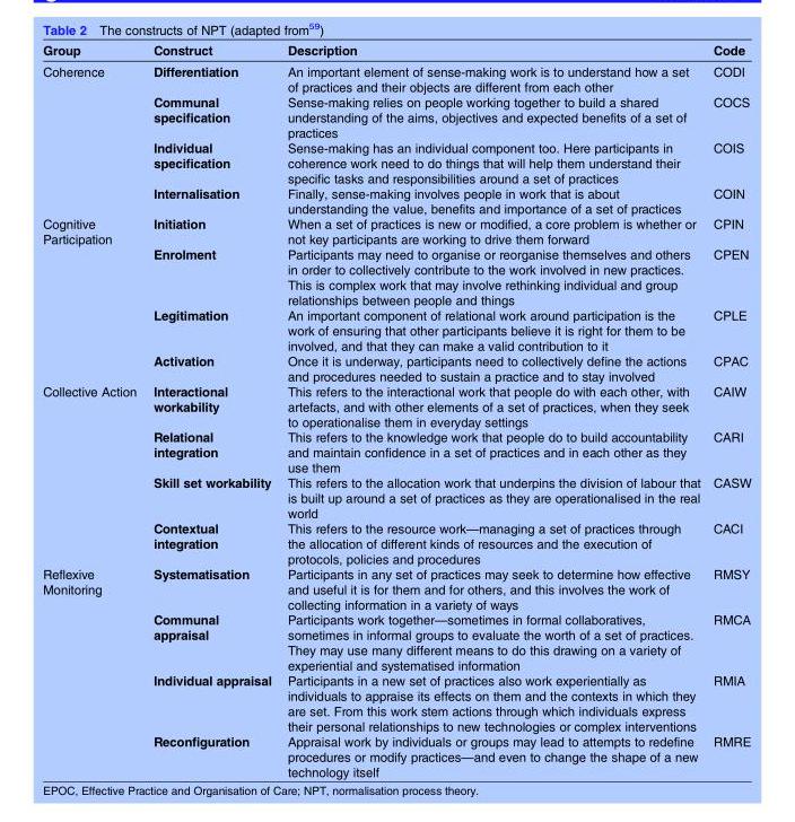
<table><thead><tr><td>Group</td><td>Construct</td><td>Description</td><td>Code</td></tr></thead><tbody><tr><td rowspan="4">Coherence</td><td>Differentiation</td><td>An important element of sense-making work is to understand how a set of practices and their objects are different from each other</td><td>CODI</td></tr><tr><td>Communal specification</td><td>Sense-making relies on people working together to build a shared understanding of the aims, objectives and expected benefits of a set of practices</td><td>COCS</td></tr><tr><td>Individual specification</td><td>Sense-making has an individual component too. Here participants in coherence work need to do things that will help them understand their specific tasks and responsibilities around a set of practices</td><td>COIS</td></tr><tr><td>Internalisation</td><td>Finally, sense-making involves people in work that is about understanding the value, benefits and importance of a set of practices</td><td>COIN</td></tr><tr><td rowspan="4">Cognitive Participation</td><td>Initiation</td><td>When a set of practices is new or modified, a core problem is whether or not key participants are working to drive them forward</td><td>CPIN</td></tr><tr><td>Enrolment</td><td>Participants may need to organise or reorganise themselves and others in order to collectively contribute to the work involved in new practices. This is complex work that may involve rethinking individual and group relationships between people and things</td><td>CPEN</td></tr><tr><td>Legitimation</td><td>An important component of relational work around participation is the work of ensuring that other participants believe it is right for them to be involved, and that they can make a valid contribution to it</td><td>CPLE</td></tr><tr><td>Activation</td><td>Once it is underway, participants need to collectively define the actions and procedures needed to sustain a practice and to stay involved</td><td>CPAC</td></tr><tr><td rowspan="4">Collective Action</td><td>Interactional workability</td><td>This refers to the interactional work that people do with each other, with artefacts, and with other elements of a set of practices, when they seek to operationalise them in everyday settings</td><td>CAIW</td></tr><tr><td>Relational integration</td><td>This refers to the knowledge work that people do to build accountability and maintain confidence in a set of practices and in each other as they use them</td><td>CARI</td></tr><tr><td>Skill set workability</td><td>This refers to the allocation work that underpins the division of labour that is built up around a set of practices as they are operationalised in the real world</td><td>CASW</td></tr><tr><td>Contextual integration</td><td>This refers to the resource work—managing a set of practices through the allocation of different kinds of resources and the execution of protocols, policies and procedures</td><td>CACI</td></tr><tr><td rowspan="4">Reflexive Monitoring</td><td>Systematisation</td><td>Participants in any set of practices may seek to determine how effective and useful it is for them and for others, and this involves the work of collecting information in a variety of ways</td><td>RMSY</td></tr><tr><td>Communal appraisal</td><td>Participants work together—sometimes in formal collaboratives, sometimes in informal groups to evaluate the worth of a set of practices. They may use many different means to do this drawing on a variety of experiential and systematised information</td><td>RMCA</td></tr><tr><td>Individual appraisal</td><td>Participants in a new set of practices also work experientially as individuals to appraise its effects on them and the contexts in which they are set. From this work stem actions through which individuals express their personal relationships to new technologies or complex interventions</td><td>RMIA</td></tr><tr><td>Reconfiguration</td><td>Appraisal work by individuals or groups may lead to attempts to redefine procedures or modify practices—and even to change the shape of a new technology itself</td><td>RMRE</td></tr></tbody></table>